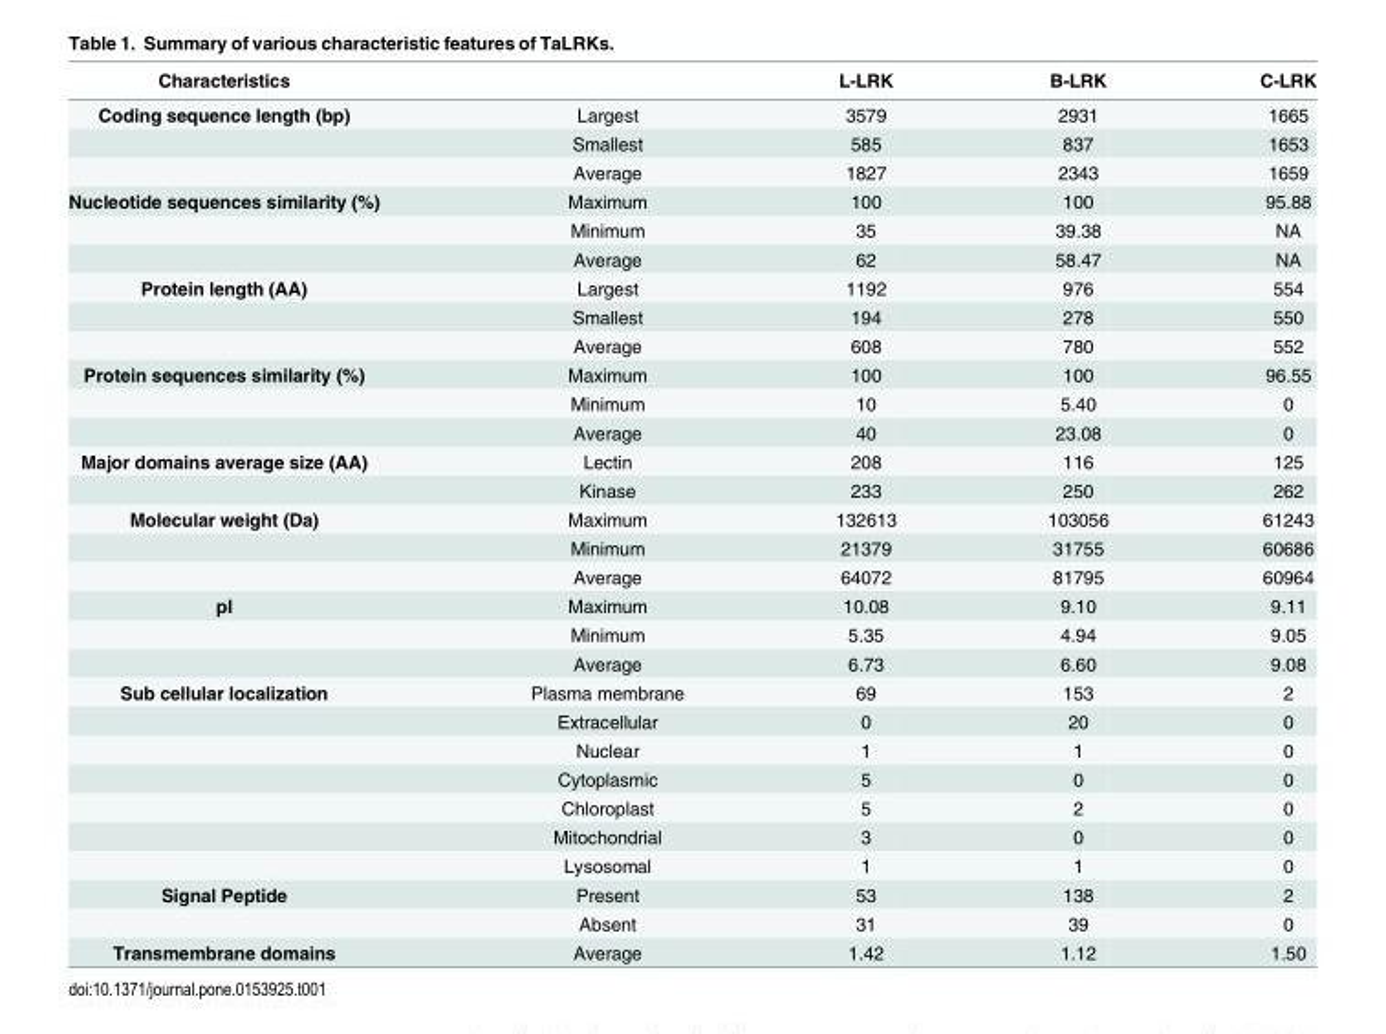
<table><thead><tr><td>Characteristics</td><td></td><td>L-LRK</td><td>B-LRK</td><td>C-LRK</td></tr></thead><tbody><tr><td rowspan="3">Coding sequence length (bp)</td><td>Largest</td><td>3579</td><td>2931</td><td>1665</td></tr><tr><td>Smallest</td><td>585</td><td>837</td><td>1653</td></tr><tr><td>Average</td><td>1827</td><td>2343</td><td>1659</td></tr><tr><td rowspan="3">Nucleotide sequences similarity (%)</td><td>Maximum</td><td>100</td><td>100</td><td>95.88</td></tr><tr><td>Minimum</td><td>35</td><td>39.38</td><td>NA</td></tr><tr><td>Average</td><td>62</td><td>58.47</td><td>NA</td></tr><tr><td rowspan="3">Protein length (AA)</td><td>Largest</td><td>1192</td><td>976</td><td>554</td></tr><tr><td>Smallest</td><td>194</td><td>278</td><td>550</td></tr><tr><td>Average</td><td>608</td><td>780</td><td>552</td></tr><tr><td rowspan="3">Protein sequences similarity (%)</td><td>Maximum</td><td>100</td><td>100</td><td>96.55</td></tr><tr><td>Minimum</td><td>10</td><td>5.40</td><td>0</td></tr><tr><td>Average</td><td>40</td><td>23.08</td><td>0</td></tr><tr><td rowspan="2">Major domains average size (AA)</td><td>Lectin</td><td>208</td><td>116</td><td>125</td></tr><tr><td>Kinase</td><td>233</td><td>250</td><td>262</td></tr><tr><td rowspan="3">Molecular weight (Da)</td><td>Maximum</td><td>132613</td><td>103056</td><td>61243</td></tr><tr><td>Minimum</td><td>21379</td><td>31755</td><td>60686</td></tr><tr><td>Average</td><td>64072</td><td>81795</td><td>60964</td></tr><tr><td rowspan="3">pI</td><td>Maximum</td><td>10.08</td><td>9.10</td><td>9.11</td></tr><tr><td>Minimum</td><td>5.35</td><td>4.94</td><td>9.05</td></tr><tr><td>Average</td><td>6.73</td><td>6.60</td><td>9.08</td></tr><tr><td rowspan="7">Sub cellular localization</td><td>Plasma membrane</td><td>69</td><td>153</td><td>2</td></tr><tr><td>Extracellular</td><td>0</td><td>20</td><td>0</td></tr><tr><td>Nuclear</td><td>1</td><td>1</td><td>0</td></tr><tr><td>Cytoplasmic</td><td>5</td><td>0</td><td>0</td></tr><tr><td>Chloroplast</td><td>5</td><td>2</td><td>0</td></tr><tr><td>Mitochondrial</td><td>3</td><td>0</td><td>0</td></tr><tr><td>Lysosomal</td><td>1</td><td>1</td><td>0</td></tr><tr><td rowspan="2">Signal Peptide</td><td>Present</td><td>53</td><td>138</td><td>2</td></tr><tr><td>Absent</td><td>31</td><td>39</td><td>0</td></tr><tr><td>Transmembrane domains</td><td>Average</td><td>1.42</td><td>1.12</td><td>1.50</td></tr></tbody></table>